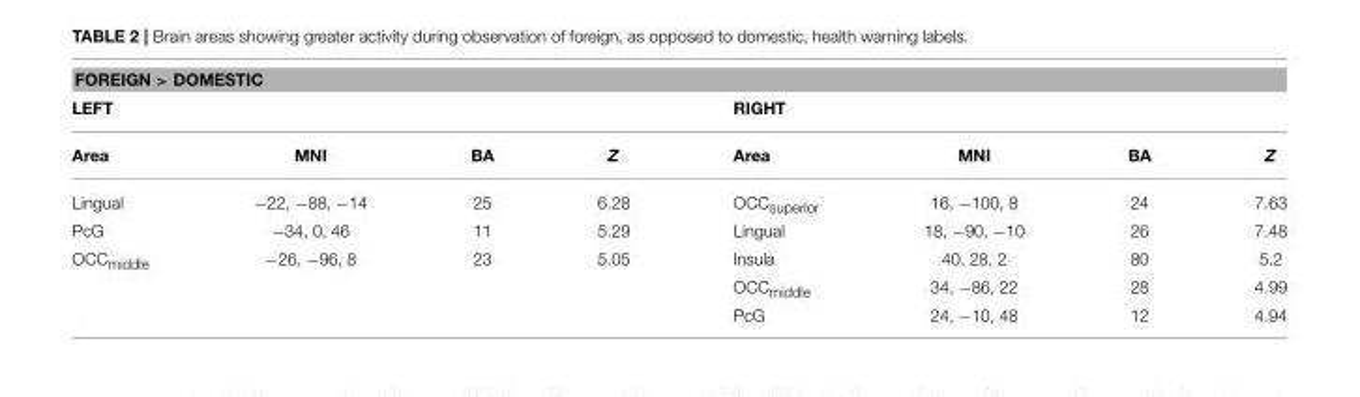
<table><thead><tr><td colspan="8">FOREIGN &gt; DOMESTIC</td></tr><tr><td>LEFT</td><td></td><td></td><td></td><td>RIGHT</td><td></td><td></td><td></td></tr></thead><tbody><tr><td>Area</td><td>MNI</td><td>BA</td><td>Z</td><td>Area</td><td>MNI</td><td>BA</td><td>Z</td></tr><tr><td>Lingual</td><td>−22, −88, −14</td><td>25</td><td>6.28</td><td>OCC<sub>superior</sub></td><td>16, −100, 8</td><td>24</td><td>7.63</td></tr><tr><td>PcG</td><td>−34, 0, 46</td><td>11</td><td>5.29</td><td>Lingual</td><td>18, −90, −10</td><td>26</td><td>7.48</td></tr><tr><td rowspan="3">OCC<sub>middle</sub></td><td>−26, −96, 8</td><td>23</td><td>5.05</td><td>Insula</td><td>40, 28, 2</td><td>80</td><td>5.2</td></tr><tr><td></td><td></td><td></td><td>OCC<sub>middle</sub></td><td>34, −86, 22</td><td>28</td><td>4.99</td></tr><tr><td></td><td></td><td></td><td>PcG</td><td>24, −10, 48</td><td>12</td><td>4.94</td></tr></tbody></table>